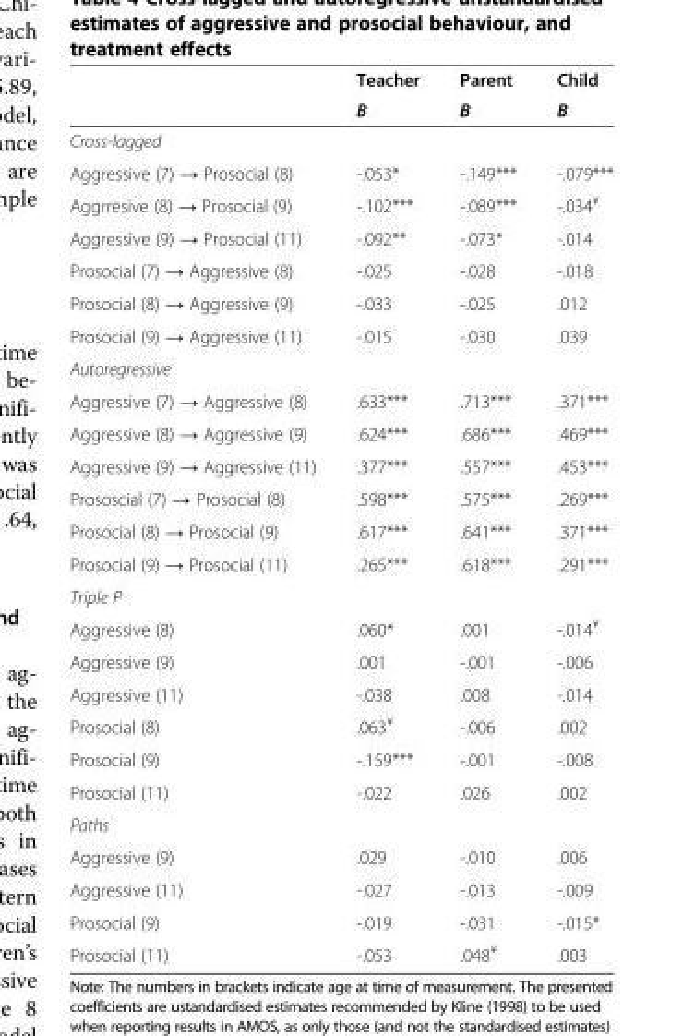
<table><thead><tr><td rowspan="2"></td><td rowspan="2">Teacher B</td><td rowspan="2">Parent B</td><td rowspan="2">Child B</td></tr><tr></tr></thead><tbody><tr><td colspan="4">Cross-lagged</td></tr><tr><td>Aggressive (7) → Prosocial (8)</td><td>-.053*</td><td>-.149***</td><td>-.079***</td></tr><tr><td>Aggrresive (8) → Prosocial (9)</td><td>-.102***</td><td>-.089***</td><td>-.034<sup>¥</sup></td></tr><tr><td>Aggressive (9) → Prosocial (11)</td><td>-.092**</td><td>-.073*</td><td>-.014</td></tr><tr><td>Prosocial (7) → Aggressive (8)</td><td>-.025</td><td>-.028</td><td>-.018</td></tr><tr><td>Prosocial (8) → Aggressive (9)</td><td>-.033</td><td>-.025</td><td>.012</td></tr><tr><td>Prosocial (9) → Aggressive (11)</td><td>-.015</td><td>-.030</td><td>.039</td></tr><tr><td colspan="4">Autoregressive</td></tr><tr><td>Aggressive (7) → Aggressive (8)</td><td>.633***</td><td>.713***</td><td>.371***</td></tr><tr><td>Aggressive (8) → Aggressive (9)</td><td>.624***</td><td>.686***</td><td>.469***</td></tr><tr><td>Aggressive (9) → Aggressive (11)</td><td>.377***</td><td>.557***</td><td>.453***</td></tr><tr><td>Prososcial (7) → Prosocial (8)</td><td>.598***</td><td>.575***</td><td>.269***</td></tr><tr><td>Prosocial (8) → Prosocial (9)</td><td>.617***</td><td>.641***</td><td>.371***</td></tr><tr><td>Prosocial (9) → Prosocial (11)</td><td>.265***</td><td>.618***</td><td>.291***</td></tr><tr><td colspan="4">Triple P</td></tr><tr><td>Aggressive (8)</td><td>.060*</td><td>.001</td><td>-.014<sup>¥</sup></td></tr><tr><td>Aggressive (9)</td><td>.001</td><td>-.001</td><td>-.006</td></tr><tr><td>Aggressive (11)</td><td>-.038</td><td>.008</td><td>-.014</td></tr><tr><td>Prosocial (8)</td><td>.063<sup>¥</sup></td><td>-.006</td><td>.002</td></tr><tr><td>Prosocial (9)</td><td>-.159***</td><td>-.001</td><td>-.008</td></tr><tr><td>Prosocial (11)</td><td>-.022</td><td>.026</td><td>.002</td></tr><tr><td colspan="4">Paths</td></tr><tr><td>Aggressive (9)</td><td>.029</td><td>-.010</td><td>.006</td></tr><tr><td>Aggressive (11)</td><td>-.027</td><td>-.013</td><td>-.009</td></tr><tr><td>Prosocial (9)</td><td>-.019</td><td>-.031</td><td>-.015*</td></tr><tr><td>Prosocial (11)</td><td>-.053</td><td>.048<sup>¥</sup></td><td>.003</td></tr></tbody></table>